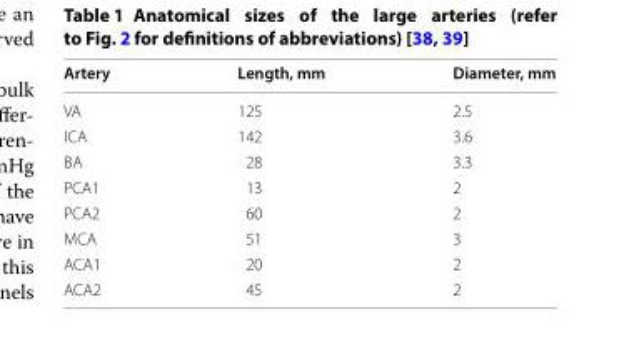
<table><thead><tr><td>Artery</td><td>Length, mm</td><td>Diameter, mm</td></tr></thead><tbody><tr><td>VA</td><td>125</td><td>2.5</td></tr><tr><td>ICA</td><td>142</td><td>3.6</td></tr><tr><td>BA</td><td>28</td><td>3.3</td></tr><tr><td>PCA1</td><td>13</td><td>2</td></tr><tr><td>PCA2</td><td>60</td><td>2</td></tr><tr><td>MCA</td><td>51</td><td>3</td></tr><tr><td>ACA1</td><td>20</td><td>2</td></tr><tr><td>ACA2</td><td>45</td><td>2</td></tr></tbody></table>